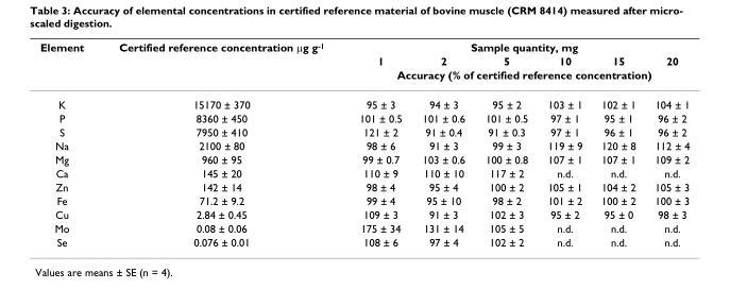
<table><thead><tr><td rowspan="3">Element</td><td rowspan="3">Certified reference concentration μg g<sup>-1</sup></td><td colspan="6">Sample quantity, mg</td></tr><tr><td>1</td><td>2</td><td>5</td><td>10</td><td>15</td><td>20</td></tr><tr><td colspan="6">Accuracy (% of certified reference concentration)</td></tr></thead><tbody><tr><td>K</td><td>15170 ± 370</td><td>95 ± 3</td><td>94 ± 3</td><td>95 ± 2</td><td>103 ± 1</td><td>102 ± 1</td><td>104 ± 1</td></tr><tr><td>P</td><td>8360 ± 450</td><td>101 ± 0.5</td><td>101 ± 0.6</td><td>101 ± 0.5</td><td>97 ± 1</td><td>95 ± 1</td><td>96 ± 2</td></tr><tr><td>S</td><td>7950 ± 410</td><td>121 ± 2</td><td>91 ± 0.4</td><td>91 ± 0.3</td><td>97 ± 1</td><td>96 ± 1</td><td>96 ± 2</td></tr><tr><td>Na</td><td>2100 ± 80</td><td>98 ± 6</td><td>91 ± 3</td><td>99 ± 3</td><td>119 ± 9</td><td>120 ± 8</td><td>112 ± 4</td></tr><tr><td>Mg</td><td>960 ± 95</td><td>99 ± 0.7</td><td>103 ± 0.6</td><td>100 ± 0.8</td><td>107 ± 1</td><td>107 ± 1</td><td>109 ± 2</td></tr><tr><td>Ca</td><td>145 ± 20</td><td>110 ± 9</td><td>110 ± 10</td><td>117 ± 2</td><td>n.d.</td><td>n.d.</td><td>n.d.</td></tr><tr><td>Zn</td><td>142 ± 14</td><td>98 ± 4</td><td>95 ± 4</td><td>100 ± 2</td><td>105 ± 1</td><td>104 ± 2</td><td>105 ± 3</td></tr><tr><td>Fe</td><td>71.2 ± 9.2</td><td>99 ± 4</td><td>95 ± 10</td><td>98 ± 2</td><td>101 ± 2</td><td>100 ± 2</td><td>100 ± 3</td></tr><tr><td>Cu</td><td>2.84 ± 0.45</td><td>109 ± 3</td><td>91 ± 3</td><td>102 ± 3</td><td>95 ± 2</td><td>95 ± 0</td><td>98 ± 3</td></tr><tr><td>Mo</td><td>0.08 ± 0.06</td><td>175 ± 34</td><td>131 ± 14</td><td>105 ± 5</td><td>n.d.</td><td>n.d.</td><td>n.d.</td></tr><tr><td>Se</td><td>0.076 ± 0.01</td><td>108 ± 6</td><td>97 ± 4</td><td>102 ± 2</td><td>n.d.</td><td>n.d.</td><td>n.d.</td></tr></tbody></table>